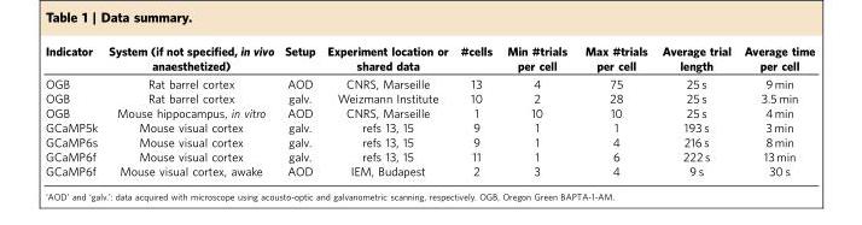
<table><thead><tr><td>Indicator</td><td>System (if not specified, in vivo anaesthetized)</td><td>Setup</td><td>Experiment location or shared data</td><td>#cells</td><td>Min #trials per cell</td><td>Max #trials per cell</td><td>Average trial length</td><td>Average time per cell</td></tr></thead><tbody><tr><td>OGB</td><td>Rat barrel cortex</td><td>AOD</td><td>CNRS, Marseille</td><td>13</td><td>4</td><td>75</td><td>25 s</td><td>9 min</td></tr><tr><td>OGB</td><td>Rat barrel cortex</td><td>galv.</td><td>Weizmann Institute</td><td>10</td><td>2</td><td>28</td><td>25 s</td><td>3.5 min</td></tr><tr><td>OGB</td><td>Mouse hippocampus, in vitro</td><td>AOD</td><td>CNRS, Marseille</td><td>1</td><td>10</td><td>10</td><td>25 s</td><td>4 min</td></tr><tr><td>GCaMP5k</td><td>Mouse visual cortex</td><td>galv.</td><td>refs 13, 15</td><td>9</td><td>1</td><td>1</td><td>193 s</td><td>3 min</td></tr><tr><td>GCaMP6s</td><td>Mouse visual cortex</td><td>galv.</td><td>refs 13, 15</td><td>9</td><td>1</td><td>4</td><td>216 s</td><td>8 min</td></tr><tr><td>GCaMP6f</td><td>Mouse visual cortex</td><td>galv.</td><td>refs 13, 15</td><td>11</td><td>1</td><td>6</td><td>222 s</td><td>13 min</td></tr><tr><td>GCaMP6f</td><td>Mouse visual cortex, awake</td><td>AOD</td><td>IEM, Budapest</td><td>2</td><td>3</td><td>4</td><td>9 s</td><td>30 s</td></tr></tbody></table>